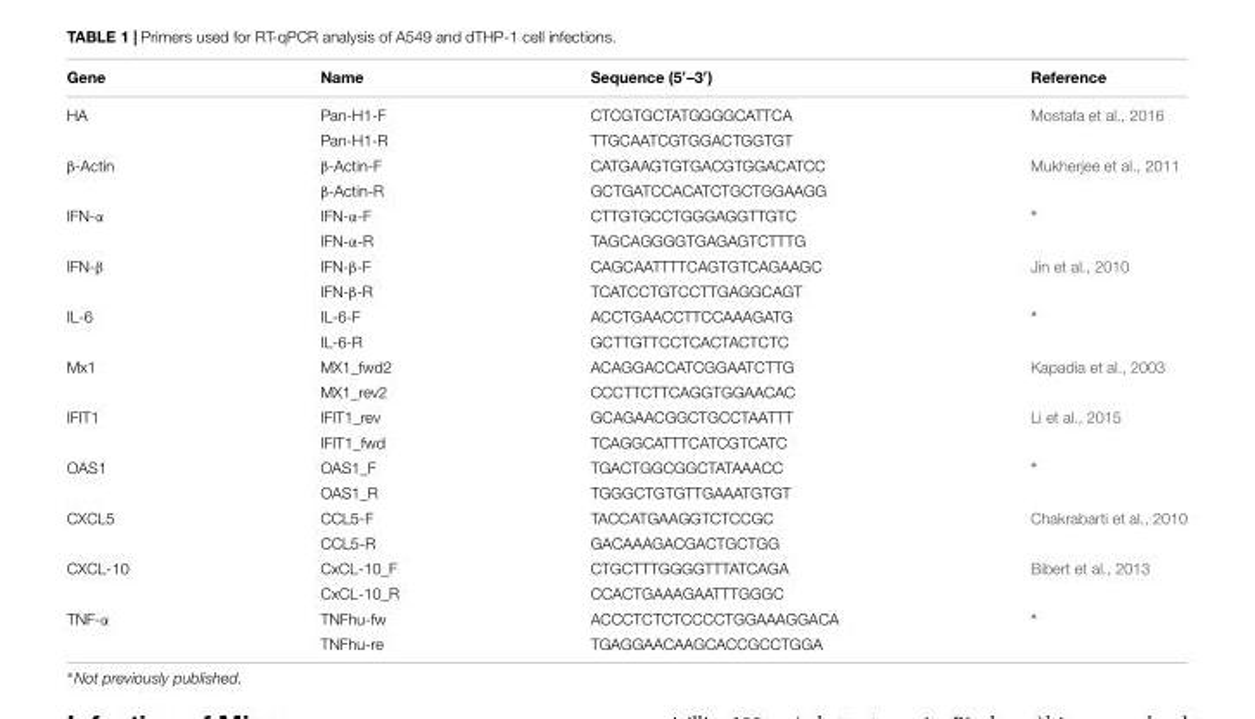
<table><thead><tr><td>Gene</td><td>Name</td><td>Sequence (5′–3′)</td><td>Reference</td></tr></thead><tbody><tr><td rowspan="2">HA</td><td>Pan-H1-F</td><td>CTCGTGCTATGGGGCATTCA</td><td>Mostafa et al., 2016</td></tr><tr><td>Pan-H1-R</td><td>TTGCAATCGTGGACTGGTGT</td><td></td></tr><tr><td rowspan="2">β-Actin</td><td>β-Actin-F</td><td>CATGAAGTGTGACGTGGACATCC</td><td>Mukherjee et al., 2011</td></tr><tr><td>β-Actin-R</td><td>GCTGATCCACATCTGCTGGAAGG</td><td></td></tr><tr><td rowspan="2">IFN-α</td><td>IFN-α-F</td><td>CTTGTGCCTGGGAGGTTGTC</td><td>∗</td></tr><tr><td>IFN-α-R</td><td>TAGCAGGGGTGAGAGTCTTTG</td><td></td></tr><tr><td rowspan="2">IFN-β</td><td>IFN-β-F</td><td>CAGCAATTTTCAGTGTCAGAAGC</td><td>Jin et al., 2010</td></tr><tr><td>IFN-β-R</td><td>TCATCCTGTCCTTGAGGCAGT</td><td></td></tr><tr><td rowspan="2">IL-6</td><td>IL-6-F</td><td>ACCTGAACCTTCCAAAGATG</td><td>∗</td></tr><tr><td>IL-6-R</td><td>GCTTGTTCCTCACTACTCTC</td><td></td></tr><tr><td rowspan="2">Mx1</td><td>MX1_fwd2</td><td>ACAGGACCATCGGAATCTTG</td><td>Kapadia et al., 2003</td></tr><tr><td>MX1_rev2</td><td>CCCTTCTTCAGGTGGAACAC</td><td></td></tr><tr><td rowspan="2">IFIT1</td><td>IFIT1_rev</td><td>GCAGAACGGCTGCCTAATTT</td><td>Li et al., 2015</td></tr><tr><td>IFIT1_fwd</td><td>TCAGGCATTTCATCGTCATC</td><td></td></tr><tr><td rowspan="2">OAS1</td><td>OAS1_F</td><td>TGACTGGCGGCTATAAACC</td><td>∗</td></tr><tr><td>OAS1_R</td><td>TGGGCTGTGTTGAAATGTGT</td><td></td></tr><tr><td rowspan="2">CXCL5</td><td>CCL5-F</td><td>TACCATGAAGGTCTCCGC</td><td>Chakrabarti et al., 2010</td></tr><tr><td>CCL5-R</td><td>GACAAAGACGACTGCTGG</td><td></td></tr><tr><td rowspan="2">CXCL-10</td><td>CxCL-10_F</td><td>CTGCTTTGGGGTTTATCAGA</td><td>Bibert et al., 2013</td></tr><tr><td>CxCL-10_R</td><td>CCACTGAAAGAATTTGGGC</td><td></td></tr><tr><td rowspan="2">TNF-α</td><td>TNFhu-fw</td><td>ACCCTCTCTCCCCTGGAAAGGACA</td><td>∗</td></tr><tr><td>TNFhu-re</td><td>TGAGGAACAAGCACCGCCTGGA</td><td></td></tr></tbody></table>